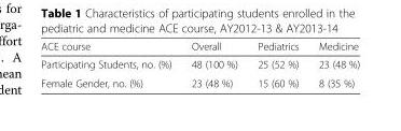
<table><thead><tr><td>ACE course</td><td>Overall</td><td>Pediatrics</td><td>Medicine</td></tr></thead><tbody><tr><td>Participating Students, no. (%)</td><td>48 (100 %)</td><td>25 (52 %)</td><td>23 (48 %)</td></tr><tr><td>Female Gender, no. (%)</td><td>23 (48 %)</td><td>15 (60 %)</td><td>8 (35 %)</td></tr></tbody></table>